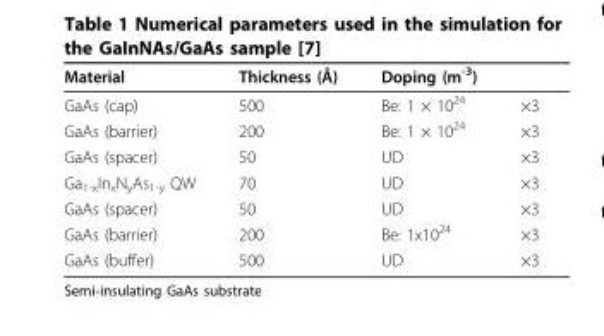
<table><thead><tr><td>Material</td><td>Thickness (Å)</td><td>Doping (m<sup>-3</sup>)</td><td></td></tr></thead><tbody><tr><td>GaAs (cap)</td><td>500</td><td>Be: 1 × 10<sup>24</sup></td><td>×3</td></tr><tr><td>GaAs (barrier)</td><td>200</td><td>Be: 1 × 10<sup>24</sup></td><td>×3</td></tr><tr><td>GaAs (spacer)</td><td>50</td><td>UD</td><td>×3</td></tr><tr><td>Ga<sub>1-x</sub>In<sub>x</sub>N<sub>y</sub>As<sub>1-y</sub> QW</td><td>70</td><td>UD</td><td>×3</td></tr><tr><td>GaAs (spacer)</td><td>50</td><td>UD</td><td>×3</td></tr><tr><td>GaAs (barrier)</td><td>200</td><td>Be: 1x10<sup>24</sup></td><td>×3</td></tr><tr><td>GaAs (buffer)</td><td>500</td><td>UD</td><td>×3</td></tr></tbody></table>